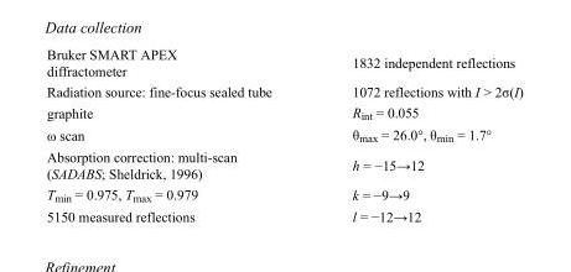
<table><tbody><tr><td>Bruker SMART APEX diffractometer</td><td>1832 independent reflections</td></tr><tr><td>Radiation source: fine-focus sealed tube</td><td>1072 reflections with I &gt; 2σ(I)</td></tr><tr><td>graphite</td><td>R<sub>int</sub> = 0.055</td></tr><tr><td>ω scan</td><td>θ<sub>max</sub> = 26.0°, θ<sub>min</sub> = 1.7°</td></tr><tr><td>Absorption correction: multi-scan (SADABS; Sheldrick, 1996)</td><td>h = −15→12</td></tr><tr><td>T<sub>min</sub> = 0.975, T<sub>max</sub> = 0.979</td><td>k = −9→9</td></tr><tr><td>5150 measured reflections</td><td>l = −12→12</td></tr></tbody></table>